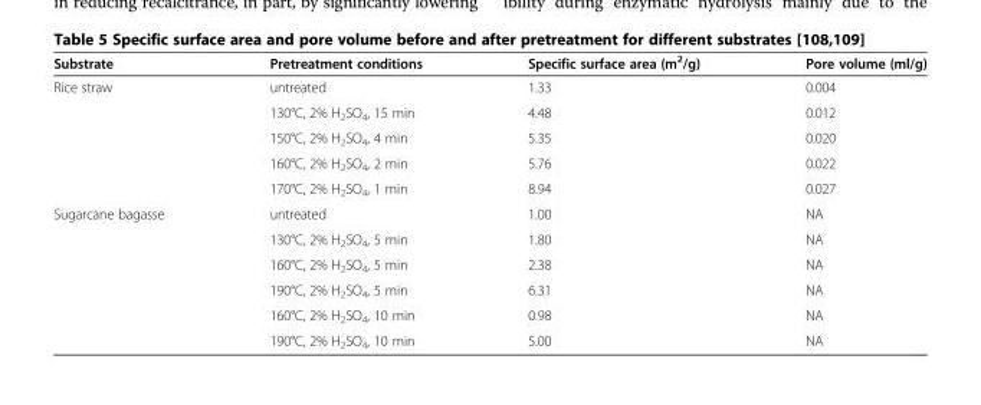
<table><thead><tr><td>Substrate</td><td>Pretreatment conditions</td><td>Specific surface area (m<sup>2</sup>/g)</td><td>Pore volume (ml/g)</td></tr></thead><tbody><tr><td rowspan="5">Rice straw</td><td>untreated</td><td>1.33</td><td>0.004</td></tr><tr><td>130°C, 2% H<sub>2</sub>SO<sub>4</sub>, 15 min</td><td>4.48</td><td>0.012</td></tr><tr><td>150°C, 2% H<sub>2</sub>SO<sub>4</sub>, 4 min</td><td>5.35</td><td>0.020</td></tr><tr><td>160°C, 2% H<sub>2</sub>SO<sub>4</sub>, 2 min</td><td>5.76</td><td>0.022</td></tr><tr><td>170°C, 2% H<sub>2</sub>SO<sub>4</sub>, 1 min</td><td>8.94</td><td>0.027</td></tr><tr><td rowspan="6">Sugarcane bagasse</td><td>untreated</td><td>1.00</td><td>NA</td></tr><tr><td>130°C, 2% H<sub>2</sub>SO<sub>4</sub>, 5 min</td><td>1.80</td><td>NA</td></tr><tr><td>160°C, 2% H<sub>2</sub>SO<sub>4</sub>, 5 min</td><td>2.38</td><td>NA</td></tr><tr><td>190°C, 2% H<sub>2</sub>SO<sub>4</sub>, 5 min</td><td>6.31</td><td>NA</td></tr><tr><td>160°C, 2% H<sub>2</sub>SO<sub>4</sub>, 10 min</td><td>0.98</td><td>NA</td></tr><tr><td>190°C, 2% H<sub>2</sub>SO<sub>4</sub>, 10 min</td><td>5.00</td><td>NA</td></tr></tbody></table>